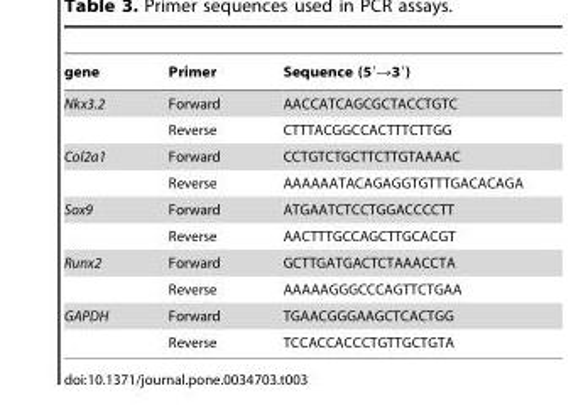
<table><thead><tr><td>gene</td><td>Primer</td><td>Sequence (5′→3′)</td></tr></thead><tbody><tr><td rowspan="2">Nkx3.2</td><td>Forward</td><td>AACCATCAGCGCTACCTGTC</td></tr><tr><td>Reverse</td><td>CTTTACGGCCACTTTCTTGG</td></tr><tr><td rowspan="2">Col2a1</td><td>Forward</td><td>CCTGTCTGCTTCTTGTAAAAC</td></tr><tr><td>Reverse</td><td>AAAAAATACAGAGGTGTTTGACACAGA</td></tr><tr><td rowspan="2">Sox9</td><td>Forward</td><td>ATGAATCTCCTGGACCCCTT</td></tr><tr><td>Reverse</td><td>AACTTTGCCAGCTTGCACGT</td></tr><tr><td rowspan="2">Runx2</td><td>Forward</td><td>GCTTGATGACTCTAAACCTA</td></tr><tr><td>Reverse</td><td>AAAAAGGGCCCAGTTCTGAA</td></tr><tr><td rowspan="2">GAPDH</td><td>Forward</td><td>TGAACGGGAAGCTCACTGG</td></tr><tr><td>Reverse</td><td>TCCACCACCCTGTTGCTGTA</td></tr></tbody></table>